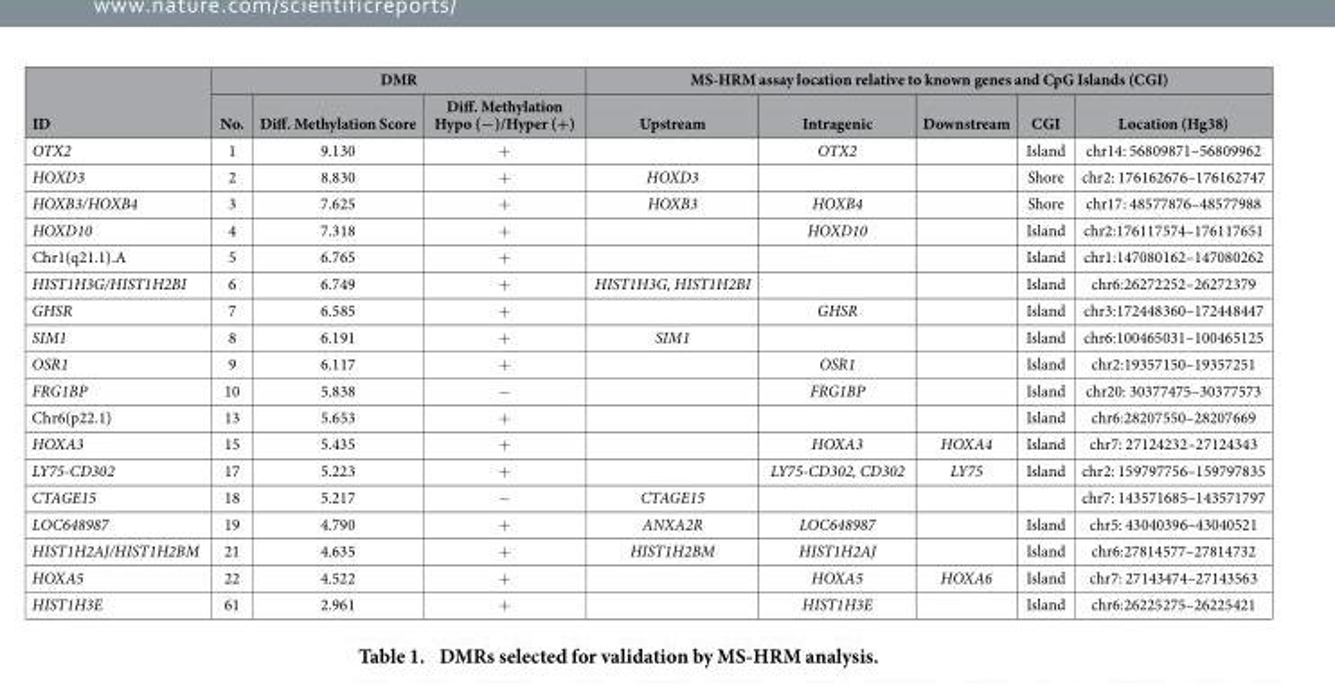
<table><thead><tr><td rowspan="2">ID</td><td colspan="3">DMR</td><td colspan="5">MS-HRM assay location relative to known genes and CpG Islands (CGI)</td></tr><tr><td>No.</td><td>Diff. Methylation Score</td><td>Diff. Methylation Hypo (−)/Hyper (+)</td><td>Upstream</td><td>Intragenic</td><td>Downstream</td><td>CGI</td><td>Location (Hg38)</td></tr></thead><tbody><tr><td>OTX2</td><td>1</td><td>9.130</td><td>+</td><td></td><td>OTX2</td><td></td><td>Island</td><td>chr14: 56809871–56809962</td></tr><tr><td>HOXD3</td><td>2</td><td>8.830</td><td>+</td><td>HOXD3</td><td></td><td></td><td>Shore</td><td>chr2: 176162676–176162747</td></tr><tr><td>HOXB3/HOXB4</td><td>3</td><td>7.625</td><td>+</td><td>HOXB3</td><td>HOXB4</td><td></td><td>Shore</td><td>chr17: 48577876–48577988</td></tr><tr><td>HOXD10</td><td>4</td><td>7.318</td><td>+</td><td></td><td>HOXD10</td><td></td><td>Island</td><td>chr2:176117574–176117651</td></tr><tr><td>Chr1(q21.1).A</td><td>5</td><td>6.765</td><td>+</td><td></td><td></td><td></td><td>Island</td><td>chr1:147080162–147080262</td></tr><tr><td>HIST1H3G/HIST1H2BI</td><td>6</td><td>6.749</td><td>+</td><td>HIST1H3G, HIST1H2BI</td><td></td><td></td><td>Island</td><td>chr6:26272252–26272379</td></tr><tr><td>GHSR</td><td>7</td><td>6.585</td><td>+</td><td></td><td>GHSR</td><td></td><td>Island</td><td>chr3:172448360–172448447</td></tr><tr><td>SIM1</td><td>8</td><td>6.191</td><td>+</td><td>SIM1</td><td></td><td></td><td>Island</td><td>chr6:100465031–100465125</td></tr><tr><td>OSR1</td><td>9</td><td>6.117</td><td>+</td><td></td><td>OSR1</td><td></td><td>Island</td><td>chr2:19357150–19357251</td></tr><tr><td>FRG1BP</td><td>10</td><td>5.838</td><td>−</td><td></td><td>FRG1BP</td><td></td><td>Island</td><td>chr20: 30377475–30377573</td></tr><tr><td>Chr6(p22.1)</td><td>13</td><td>5.653</td><td>+</td><td></td><td></td><td></td><td>Island</td><td>chr6:28207550–28207669</td></tr><tr><td>HOXA3</td><td>15</td><td>5.435</td><td>+</td><td></td><td>HOXA3</td><td>HOXA4</td><td>Island</td><td>chr7: 27124232–27124343</td></tr><tr><td>LY75-CD302</td><td>17</td><td>5.223</td><td>+</td><td></td><td>LY75-CD302, CD302</td><td>LY75</td><td>Island</td><td>chr2: 159797756–159797835</td></tr><tr><td>CTAGE15</td><td>18</td><td>5.217</td><td>−</td><td>CTAGE15</td><td></td><td></td><td></td><td>chr7: 143571685–143571797</td></tr><tr><td>LOC648987</td><td>19</td><td>4.790</td><td>+</td><td>ANXA2R</td><td>LOC648987</td><td></td><td>Island</td><td>chr5: 43040396–43040521</td></tr><tr><td>HIST1H2AJ/HIST1H2BM</td><td>21</td><td>4.635</td><td>+</td><td>HIST1H2BM</td><td>HIST1H2AJ</td><td></td><td>Island</td><td>chr6:27814577–27814732</td></tr><tr><td>HOXA5</td><td>22</td><td>4.522</td><td>+</td><td></td><td>HOXA5</td><td>HOXA6</td><td>Island</td><td>chr7: 27143474–27143563</td></tr><tr><td>HIST1H3E</td><td>61</td><td>2.961</td><td>+</td><td></td><td>HIST1H3E</td><td></td><td>Island</td><td>chr6:26225275–26225421</td></tr></tbody></table>